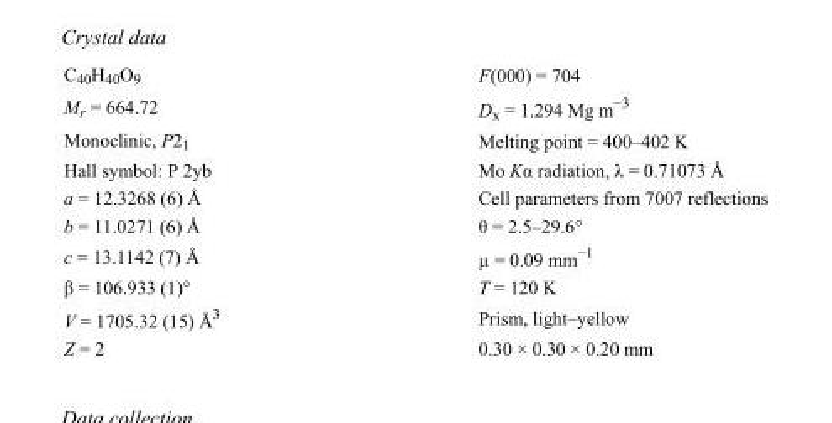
<table><tbody><tr><td>C<sub>40</sub>H<sub>40</sub>O<sub>9</sub></td><td>F(000) = 704</td></tr><tr><td>M<sub>r</sub> = 664.72</td><td>D<sub>x</sub> = 1.294 Mg m<sup>−3</sup></td></tr><tr><td>Monoclinic, P2<sub>1</sub></td><td>Melting point = 400–402 K</td></tr><tr><td>Hall symbol: P 2yb</td><td>Mo Kα radiation, λ = 0.71073 Å</td></tr><tr><td>a = 12.3268 (6) Å</td><td>Cell parameters from 7007 reflections</td></tr><tr><td>b = 11.0271 (6) Å</td><td>θ = 2.5–29.6°</td></tr><tr><td>c = 13.1142 (7) Å</td><td>µ = 0.09 mm<sup>−1</sup></td></tr><tr><td>β = 106.933 (1)°</td><td>T = 120 K</td></tr><tr><td>V = 1705.32 (15) Å<sup>3</sup></td><td>Prism, light–yellow</td></tr><tr><td>Z = 2</td><td>0.30 × 0.30 × 0.20 mm</td></tr></tbody></table>